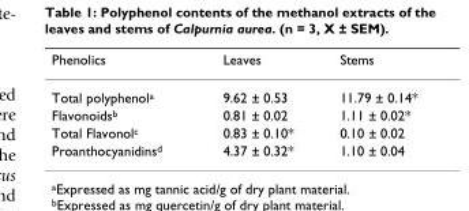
<table><thead><tr><td>Phenolics</td><td>Leaves</td><td>Stems</td></tr></thead><tbody><tr><td>Total polyphenol<sup>a</sup></td><td>9.62 ± 0.53</td><td>11.79 ± 0.14*</td></tr><tr><td>Flavonoids<sup>b</sup></td><td>0.81 ± 0.02</td><td>1.11 ± 0.02*</td></tr><tr><td>Total Flavonol<sup>c</sup></td><td>0.83 ± 0.10*</td><td>0.10 ± 0.02</td></tr><tr><td>Proanthocyanidins<sup>d</sup></td><td>4.37 ± 0.32*</td><td>1.10 ± 0.04</td></tr></tbody></table>